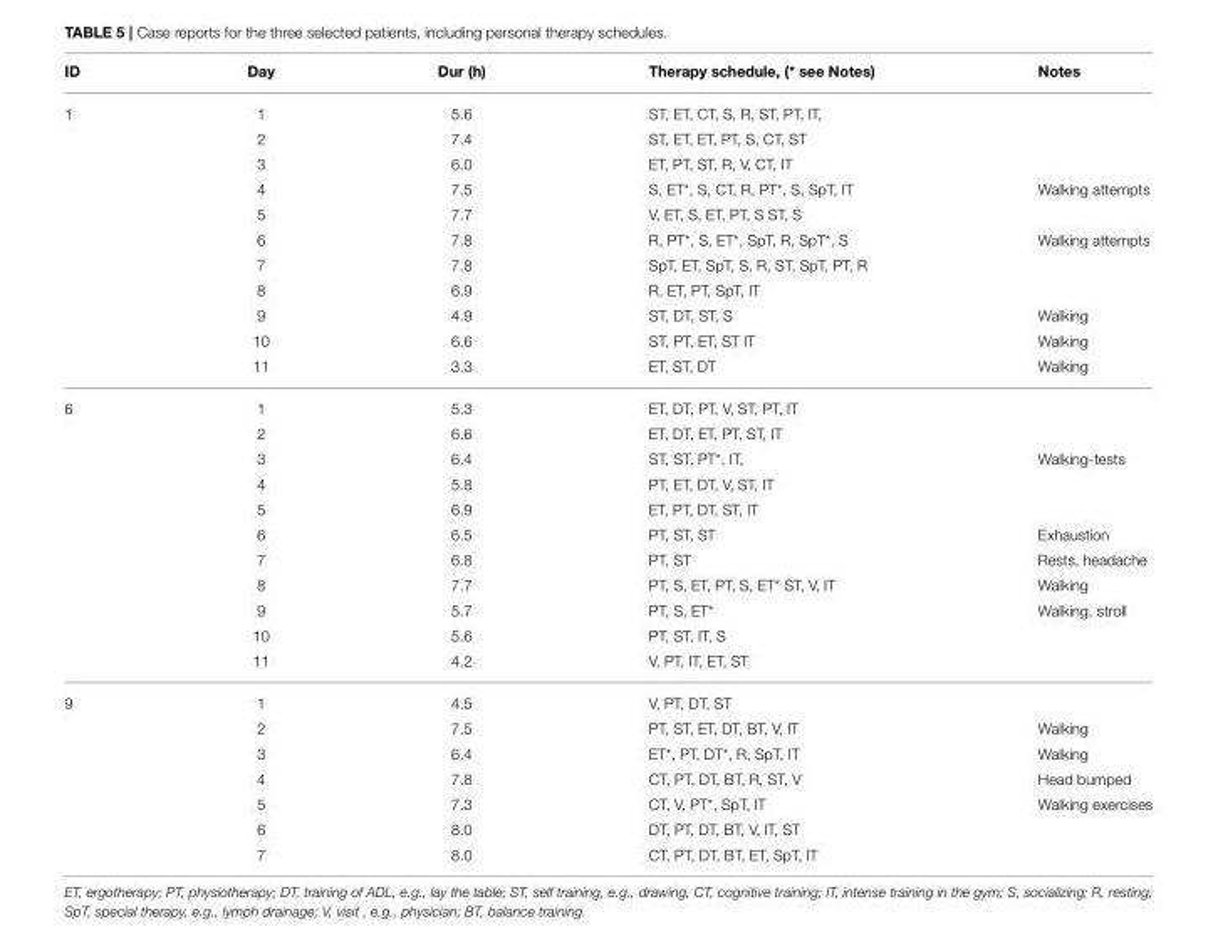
<table><thead><tr><td>ID</td><td>Day</td><td>Dur (h)</td><td>Therapy schedule, (* see Notes)</td><td>Notes</td></tr></thead><tbody><tr><td rowspan="11">1</td><td>1</td><td>5.6</td><td>ST, ET, CT, S, R, ST, PT, IT,</td><td></td></tr><tr><td>2</td><td>7.4</td><td>ST, ET, ET, PT, S, CT, ST</td><td></td></tr><tr><td>3</td><td>6.0</td><td>ET, PT, ST, R, V, CT, IT</td><td></td></tr><tr><td>4</td><td>7.5</td><td>S, ET*, S, CT, R, PT*, S, SpT, IT</td><td>Walking attempts</td></tr><tr><td>5</td><td>7.7</td><td>V, ET, S, ET, PT, S ST, S</td><td></td></tr><tr><td>6</td><td>7.8</td><td>R, PT*, S, ET*, SpT, R, SpT*, S</td><td>Walking attempts</td></tr><tr><td>7</td><td>7.8</td><td>SpT, ET, SpT, S, R, ST, SpT, PT, R</td><td></td></tr><tr><td>8</td><td>6.9</td><td>R, ET, PT, SpT, IT</td><td></td></tr><tr><td>9</td><td>4.9</td><td>ST, DT, ST, S</td><td>Walking</td></tr><tr><td>10</td><td>6.6</td><td>ST, PT, ET, ST IT</td><td>Walking</td></tr><tr><td>11</td><td>3.3</td><td>ET, ST, DT</td><td>Walking</td></tr><tr><td rowspan="11">6</td><td>1</td><td>5.3</td><td>ET, DT, PT, V, ST, PT, IT</td><td></td></tr><tr><td>2</td><td>6.6</td><td>ET, DT, ET, PT, ST, IT</td><td></td></tr><tr><td>3</td><td>6.4</td><td>ST, ST, PT*, IT,</td><td>Walking-tests</td></tr><tr><td>4</td><td>5.8</td><td>PT, ET, DT, V, ST, IT</td><td></td></tr><tr><td>5</td><td>6.9</td><td>ET, PT, DT, ST, IT</td><td></td></tr><tr><td>6</td><td>6.5</td><td>PT, ST, ST</td><td>Exhaustion</td></tr><tr><td>7</td><td>6.8</td><td>PT, ST</td><td>Rests, headache</td></tr><tr><td>8</td><td>7.7</td><td>PT, S, ET, PT, S, ET* ST, V, IT</td><td>Walking</td></tr><tr><td>9</td><td>5.7</td><td>PT, S, ET*</td><td>Walking, stroll</td></tr><tr><td>10</td><td>5.6</td><td>PT, ST, IT, S</td><td></td></tr><tr><td>11</td><td>4.2</td><td>V, PT, IT, ET, ST</td><td></td></tr><tr><td rowspan="7">9</td><td>1</td><td>4.5</td><td>V, PT, DT, ST</td><td></td></tr><tr><td>2</td><td>7.5</td><td>PT, ST, ET, DT, BT, V, IT</td><td>Walking</td></tr><tr><td>3</td><td>6.4</td><td>ET*, PT, DT*, R, SpT, IT</td><td>Walking</td></tr><tr><td>4</td><td>7.8</td><td>CT, PT, DT, BT, R, ST, V</td><td>Head bumped</td></tr><tr><td>5</td><td>7.3</td><td>CT, V, PT*, SpT, IT</td><td>Walking exercises</td></tr><tr><td>6</td><td>8.0</td><td>DT, PT, DT, BT, V, IT, ST</td><td></td></tr><tr><td>7</td><td>8.0</td><td>CT, PT, DT, BT, ET, SpT, IT</td><td></td></tr></tbody></table>